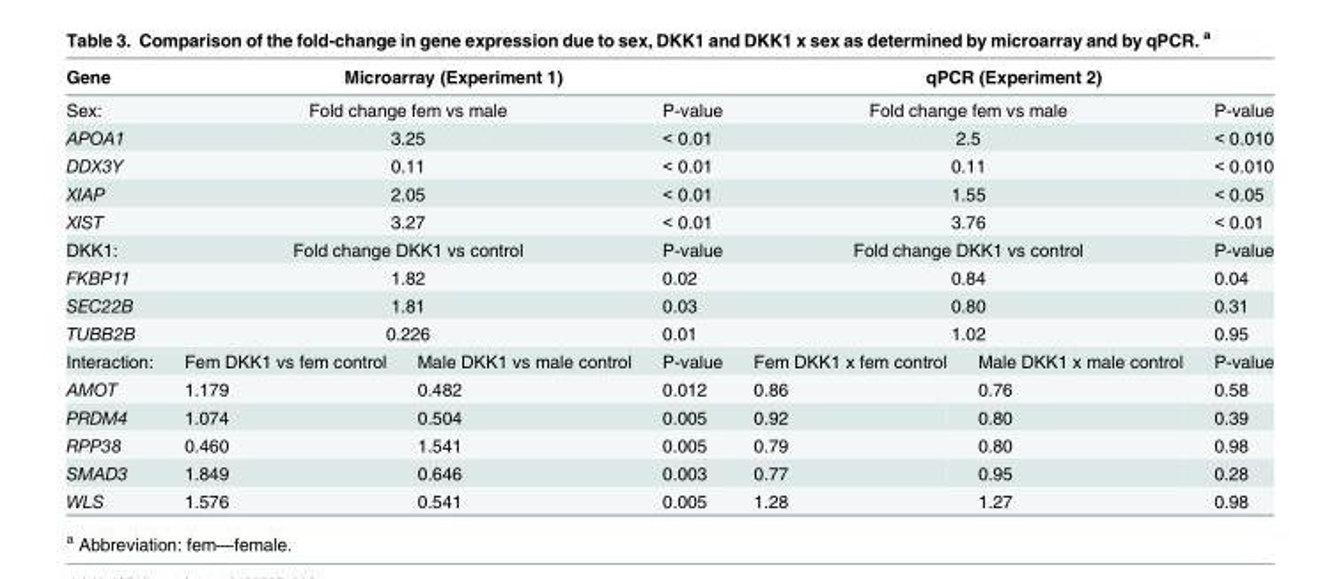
<table><thead><tr><td>Gene</td><td colspan="3">Microarray (Experiment 1)</td><td colspan="3">qPCR (Experiment 2)</td></tr></thead><tbody><tr><td>Sex:</td><td colspan="2">Fold change fem vs male</td><td>P-value</td><td colspan="2">Fold change fem vs male</td><td>P-value</td></tr><tr><td>APOA1</td><td colspan="2">3.25</td><td>&lt; 0.01</td><td colspan="2">2.5</td><td>&lt; 0.010</td></tr><tr><td>DDX3Y</td><td colspan="2">0.11</td><td>&lt; 0.01</td><td colspan="2">0.11</td><td>&lt; 0.010</td></tr><tr><td>XIAP</td><td colspan="2">2.05</td><td>&lt; 0.01</td><td colspan="2">1.55</td><td>&lt; 0.05</td></tr><tr><td>XIST</td><td colspan="2">3.27</td><td>&lt; 0.01</td><td colspan="2">3.76</td><td>&lt; 0.01</td></tr><tr><td>DKK1:</td><td colspan="2">Fold change DKK1 vs control</td><td>P-value</td><td colspan="2">Fold change DKK1 vs control</td><td>P-value</td></tr><tr><td>FKBP11</td><td colspan="2">1.82</td><td>0.02</td><td colspan="2">0.84</td><td>0.04</td></tr><tr><td>SEC22B</td><td colspan="2">1.81</td><td>0.03</td><td colspan="2">0.80</td><td>0.31</td></tr><tr><td>TUBB2B</td><td colspan="2">0.226</td><td>0.01</td><td colspan="2">1.02</td><td>0.95</td></tr><tr><td>Interaction:</td><td>Fem DKK1 vs fem control</td><td>Male DKK1 vs male control</td><td>P-value</td><td>Fem DKK1 x fem control</td><td>Male DKK1 x male control</td><td>P-value</td></tr><tr><td>AMOT</td><td>1.179</td><td>0.482</td><td>0.012</td><td>0.86</td><td>0.76</td><td>0.58</td></tr><tr><td>PRDM4</td><td>1.074</td><td>0.504</td><td>0.005</td><td>0.92</td><td>0.80</td><td>0.39</td></tr><tr><td>RPP38</td><td>0.460</td><td>1.541</td><td>0.005</td><td>0.79</td><td>0.80</td><td>0.98</td></tr><tr><td>SMAD3</td><td>1.849</td><td>0.646</td><td>0.003</td><td>0.77</td><td>0.95</td><td>0.28</td></tr><tr><td>WLS</td><td>1.576</td><td>0.541</td><td>0.005</td><td>1.28</td><td>1.27</td><td>0.98</td></tr></tbody></table>